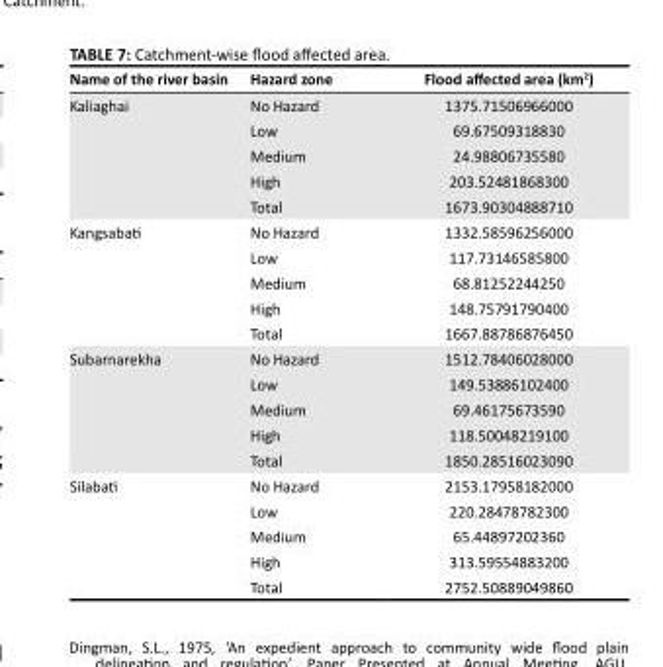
<table><thead><tr><td>Name of the river basin</td><td>Hazard zone</td><td>Flood affected area (km<sup>2</sup>)</td></tr></thead><tbody><tr><td rowspan="5">Kaliaghai</td><td>No Hazard</td><td>1375.71506966000</td></tr><tr><td>Low</td><td>69.67509318830</td></tr><tr><td>Medium</td><td>24.98806735580</td></tr><tr><td>High</td><td>203.52481868300</td></tr><tr><td>Total</td><td>1673.90304888710</td></tr><tr><td rowspan="5">Kangsabati</td><td>No Hazard</td><td>1332.58596256000</td></tr><tr><td>Low</td><td>117.73146585800</td></tr><tr><td>Medium</td><td>68.81252244250</td></tr><tr><td>High</td><td>148.75791790400</td></tr><tr><td>Total</td><td>1667.88786876450</td></tr><tr><td rowspan="5">Subarnarekha</td><td>No Hazard</td><td>1512.78406028000</td></tr><tr><td>Low</td><td>149.53886102400</td></tr><tr><td>Medium</td><td>69.46175673590</td></tr><tr><td>High</td><td>118.50048219100</td></tr><tr><td>Total</td><td>1850.28516023090</td></tr><tr><td rowspan="5">Silabati</td><td>No Hazard</td><td>2153.17958182000</td></tr><tr><td>Low</td><td>220.28478782300</td></tr><tr><td>Medium</td><td>65.44897202360</td></tr><tr><td>High</td><td>313.59554883200</td></tr><tr><td>Total</td><td>2752.50889049860</td></tr></tbody></table>